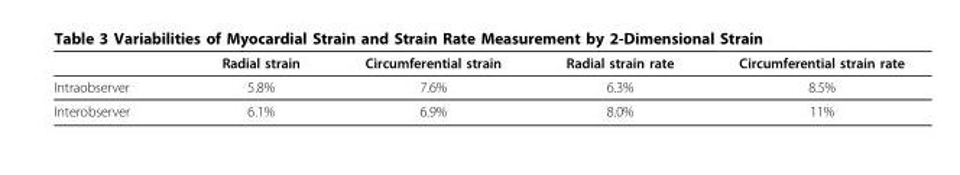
<table><thead><tr><td></td><td>Radial strain</td><td>Circumferential strain</td><td>Radial strain rate</td><td>Circumferential strain rate</td></tr></thead><tbody><tr><td>Intraobserver</td><td>5.8%</td><td>7.6%</td><td>6.3%</td><td>8.5%</td></tr><tr><td>Interobserver</td><td>6.1%</td><td>6.9%</td><td>8.0%</td><td>11%</td></tr></tbody></table>